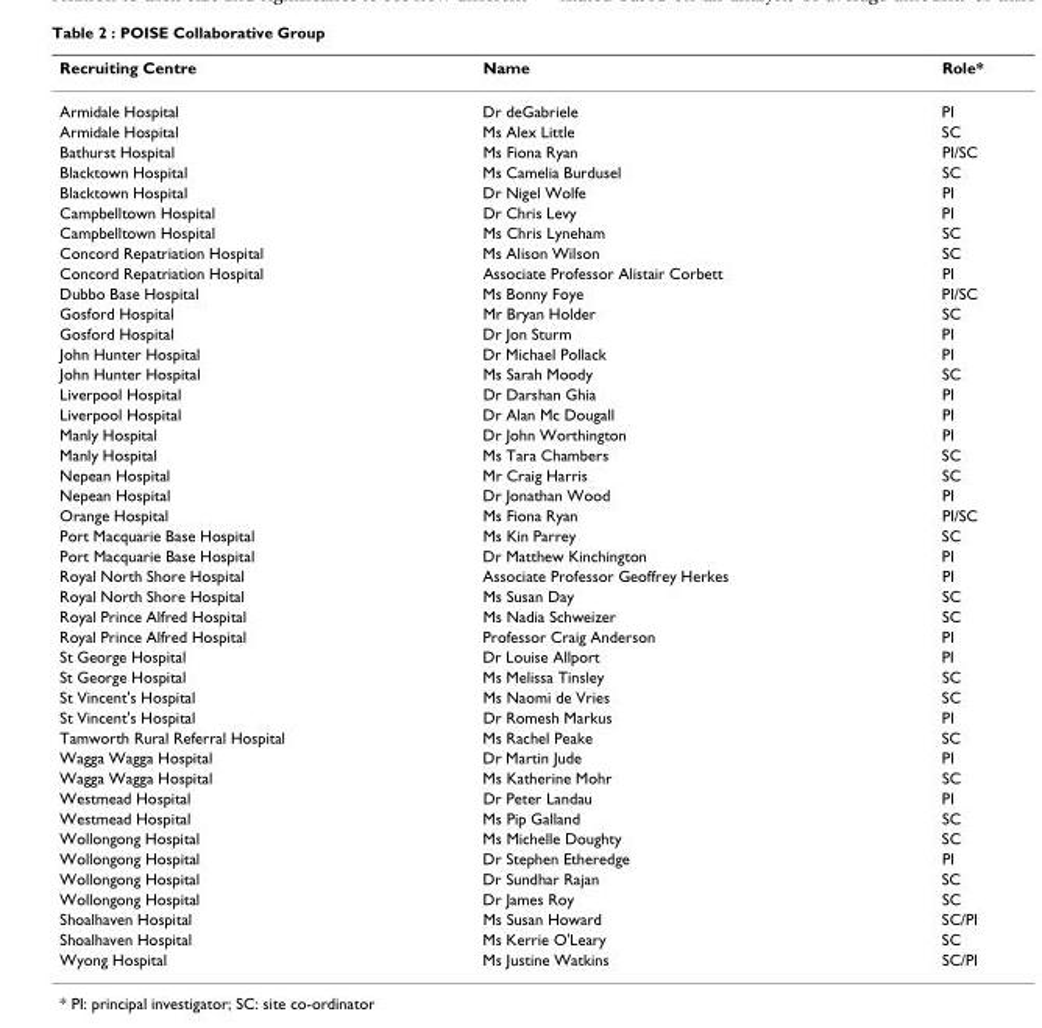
<table><thead><tr><td>Recruiting Centre</td><td>Name</td><td>Role*</td></tr></thead><tbody><tr><td>Armidale Hospital</td><td>Dr deGabriele</td><td>PI</td></tr><tr><td>Armidale Hospital</td><td>Ms Alex Little</td><td>SC</td></tr><tr><td>Bathurst Hospital</td><td>Ms Fiona Ryan</td><td>PI/SC</td></tr><tr><td>Blacktown Hospital</td><td>Ms Camelia Burdusel</td><td>SC</td></tr><tr><td>Blacktown Hospital</td><td>Dr Nigel Wolfe</td><td>PI</td></tr><tr><td>Campbelltown Hospital</td><td>Dr Chris Levy</td><td>PI</td></tr><tr><td>Campbelltown Hospital</td><td>Ms Chris Lyneham</td><td>SC</td></tr><tr><td>Concord Repatriation Hospital</td><td>Ms Alison Wilson</td><td>SC</td></tr><tr><td>Concord Repatriation Hospital</td><td>Associate Professor Alistair Corbett</td><td>PI</td></tr><tr><td>Dubbo Base Hospital</td><td>Ms Bonny Foye</td><td>PI/SC</td></tr><tr><td>Gosford Hospital</td><td>Mr Bryan Holder</td><td>SC</td></tr><tr><td>Gosford Hospital</td><td>Dr Jon Sturm</td><td>PI</td></tr><tr><td>John Hunter Hospital</td><td>Dr Michael Pollack</td><td>PI</td></tr><tr><td>John Hunter Hospital</td><td>Ms Sarah Moody</td><td>SC</td></tr><tr><td>Liverpool Hospital</td><td>Dr Darshan Ghia</td><td>PI</td></tr><tr><td>Liverpool Hospital</td><td>Dr Alan Mc Dougall</td><td>PI</td></tr><tr><td>Manly Hospital</td><td>Dr John Worthington</td><td>PI</td></tr><tr><td>Manly Hospital</td><td>Ms Tara Chambers</td><td>SC</td></tr><tr><td>Nepean Hospital</td><td>Mr Craig Harris</td><td>SC</td></tr><tr><td>Nepean Hospital</td><td>Dr Jonathan Wood</td><td>PI</td></tr><tr><td>Orange Hospital</td><td>Ms Fiona Ryan</td><td>PI/SC</td></tr><tr><td>Port Macquarie Base Hospital</td><td>Ms Kin Parrey</td><td>SC</td></tr><tr><td>Port Macquarie Base Hospital</td><td>Dr Matthew Kinchington</td><td>PI</td></tr><tr><td>Royal North Shore Hospital</td><td>Associate Professor Geoffrey Herkes</td><td>PI</td></tr><tr><td>Royal North Shore Hospital</td><td>Ms Susan Day</td><td>SC</td></tr><tr><td>Royal Prince Alfred Hospital</td><td>Ms Nadia Schweizer</td><td>SC</td></tr><tr><td>Royal Prince Alfred Hospital</td><td>Professor Craig Anderson</td><td>PI</td></tr><tr><td>St George Hospital</td><td>Dr Louise Allport</td><td>PI</td></tr><tr><td>St George Hospital</td><td>Ms Melissa Tinsley</td><td>SC</td></tr><tr><td>St Vincent&#x27;s Hospital</td><td>Ms Naomi de Vries</td><td>SC</td></tr><tr><td>St Vincent&#x27;s Hospital</td><td>Dr Romesh Markus</td><td>PI</td></tr><tr><td>Tamworth Rural Referral Hospital</td><td>Ms Rachel Peake</td><td>SC</td></tr><tr><td>Wagga Wagga Hospital</td><td>Dr Martin Jude</td><td>PI</td></tr><tr><td>Wagga Wagga Hospital</td><td>Ms Katherine Mohr</td><td>SC</td></tr><tr><td>Westmead Hospital</td><td>Dr Peter Landau</td><td>PI</td></tr><tr><td>Westmead Hospital</td><td>Ms Pip Galland</td><td>SC</td></tr><tr><td>Wollongong Hospital</td><td>Ms Michelle Doughty</td><td>SC</td></tr><tr><td>Wollongong Hospital</td><td>Dr Stephen Etheredge</td><td>PI</td></tr><tr><td>Wollongong Hospital</td><td>Dr Sundhar Rajan</td><td>SC</td></tr><tr><td>Wollongong Hospital</td><td>Dr James Roy</td><td>SC</td></tr><tr><td>Shoalhaven Hospital</td><td>Ms Susan Howard</td><td>SC/PI</td></tr><tr><td>Shoalhaven Hospital</td><td>Ms Kerrie O&#x27;Leary</td><td>SC</td></tr><tr><td>Wyong Hospital</td><td>Ms Justine Watkins</td><td>SC/PI</td></tr></tbody></table>